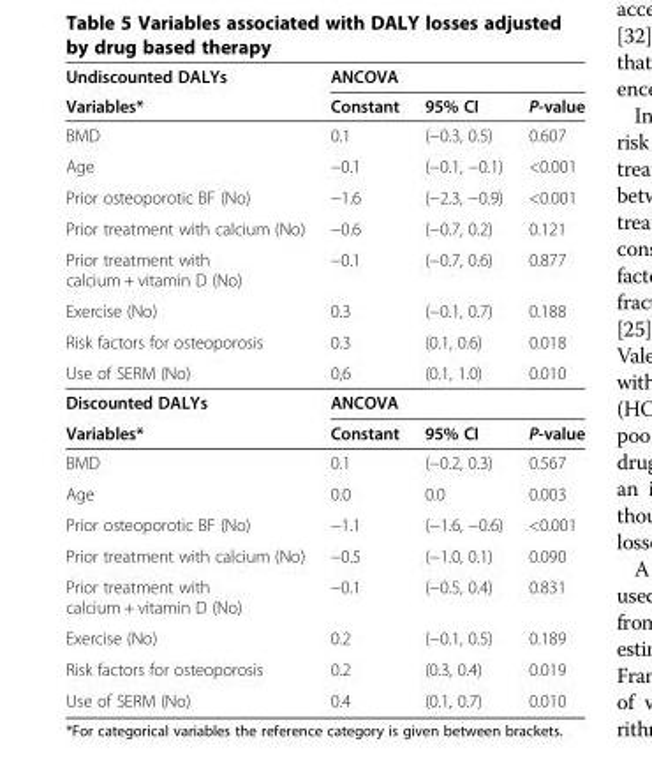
<table><thead><tr><td rowspan="2">Undiscounted DALYs Variables*</td><td colspan="3">ANCOVA</td></tr><tr><td>Constant</td><td>95% CI</td><td>P-value</td></tr></thead><tbody><tr><td>BMD</td><td>0.1</td><td>(−0.3, 0.5)</td><td>0.607</td></tr><tr><td>Age</td><td>−0.1</td><td>(−0.1, −0.1)</td><td>&lt;0.001</td></tr><tr><td>Prior osteoporotic BF (No)</td><td>−1.6</td><td>(−2.3, −0.9)</td><td>&lt;0.001</td></tr><tr><td>Prior treatment with calcium (No)</td><td>−0.6</td><td>(−0.7, 0.2)</td><td>0.121</td></tr><tr><td>Prior treatment with calcium + vitamin D (No)</td><td>−0.1</td><td>(−0.7, 0.6)</td><td>0.877</td></tr><tr><td>Exercise (No)</td><td>0.3</td><td>(−0.1, 0.7)</td><td>0.188</td></tr><tr><td>Risk factors for osteoporosis</td><td>0.3</td><td>(0.1, 0.6)</td><td>0.018</td></tr><tr><td>Use of SERM (No)</td><td>0,6</td><td>(0.1, 1.0)</td><td>0.010</td></tr><tr><td>Discounted DALYs</td><td colspan="3">ANCOVA</td></tr><tr><td>Variables*</td><td>Constant</td><td>95% CI</td><td>P-value</td></tr><tr><td>BMD</td><td>0.1</td><td>(−0.2, 0.3)</td><td>0.567</td></tr><tr><td>Age</td><td>0.0</td><td>0.0</td><td>0.003</td></tr><tr><td>Prior osteoporotic BF (No)</td><td>−1.1</td><td>(−1.6, −0.6)</td><td>&lt;0.001</td></tr><tr><td>Prior treatment with calcium (No)</td><td>−0.5</td><td>(−1.0, 0.1)</td><td>0.090</td></tr><tr><td>Prior treatment with calcium + vitamin D (No)</td><td>−0.1</td><td>(−0.5, 0.4)</td><td>0.831</td></tr><tr><td>Exercise (No)</td><td>0.2</td><td>(−0.1, 0.5)</td><td>0.189</td></tr><tr><td>Risk factors for osteoporosis</td><td>0.2</td><td>(0.3, 0.4)</td><td>0.019</td></tr><tr><td>Use of SERM (No)</td><td>0.4</td><td>(0.1, 0.7)</td><td>0.010</td></tr></tbody></table>